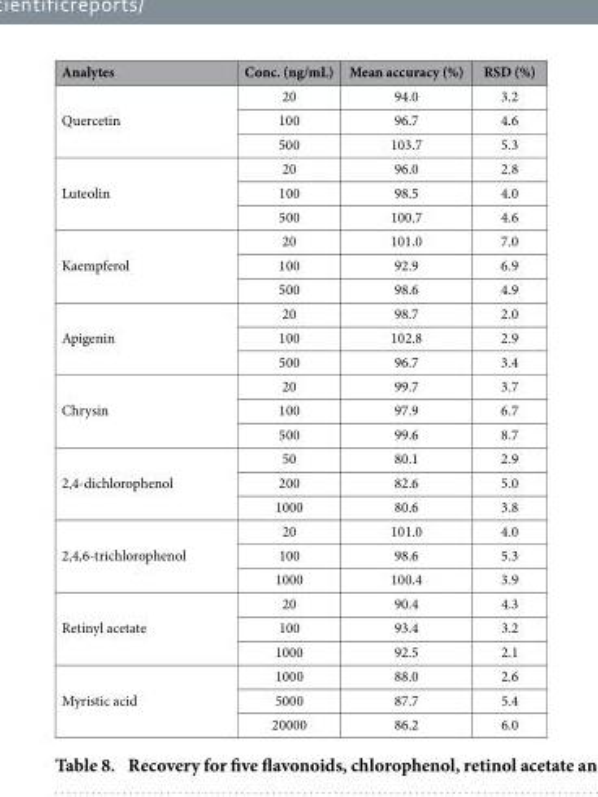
<table><thead><tr><td>Analytes</td><td>Conc. (ng/mL)</td><td>Mean accuracy (%)</td><td>RSD (%)</td></tr></thead><tbody><tr><td rowspan="3">Quercetin</td><td>20</td><td>94.0</td><td>3.2</td></tr><tr><td>100</td><td>96.7</td><td>4.6</td></tr><tr><td>500</td><td>103.7</td><td>5.3</td></tr><tr><td rowspan="3">Luteolin</td><td>20</td><td>96.0</td><td>2.8</td></tr><tr><td>100</td><td>98.5</td><td>4.0</td></tr><tr><td>500</td><td>100.7</td><td>4.6</td></tr><tr><td rowspan="3">Kaempferol</td><td>20</td><td>101.0</td><td>7.0</td></tr><tr><td>100</td><td>92.9</td><td>6.9</td></tr><tr><td>500</td><td>98.6</td><td>4.9</td></tr><tr><td rowspan="3">Apigenin</td><td>20</td><td>98.7</td><td>2.0</td></tr><tr><td>100</td><td>102.8</td><td>2.9</td></tr><tr><td>500</td><td>96.7</td><td>3.4</td></tr><tr><td rowspan="3">Chrysin</td><td>20</td><td>99.7</td><td>3.7</td></tr><tr><td>100</td><td>97.9</td><td>6.7</td></tr><tr><td>500</td><td>99.6</td><td>8.7</td></tr><tr><td rowspan="3">2,4-dichlorophenol</td><td>50</td><td>80.1</td><td>2.9</td></tr><tr><td>200</td><td>82.6</td><td>5.0</td></tr><tr><td>1000</td><td>80.6</td><td>3.8</td></tr><tr><td rowspan="3">2,4,6-trichlorophenol</td><td>20</td><td>101.0</td><td>4.0</td></tr><tr><td>100</td><td>98.6</td><td>5.3</td></tr><tr><td>1000</td><td>100.4</td><td>3.9</td></tr><tr><td rowspan="3">Retinyl acetate</td><td>20</td><td>90.4</td><td>4.3</td></tr><tr><td>100</td><td>93.4</td><td>3.2</td></tr><tr><td>1000</td><td>92.5</td><td>2.1</td></tr><tr><td rowspan="3">Myristic acid</td><td>1000</td><td>88.0</td><td>2.6</td></tr><tr><td>5000</td><td>87.7</td><td>5.4</td></tr><tr><td>20000</td><td>86.2</td><td>6.0</td></tr></tbody></table>